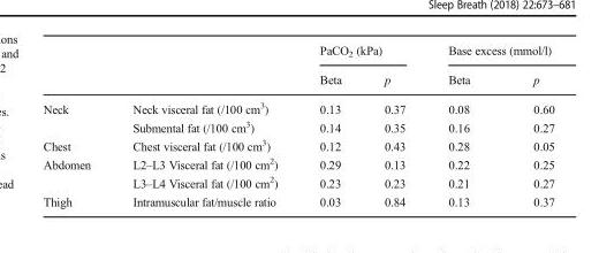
<table><thead><tr><td rowspan="2"></td><td rowspan="2"></td><td colspan="2">PaCO<sub>2</sub> (kPa)</td><td colspan="2">Base excess (mmol/l)</td></tr><tr><td>Beta</td><td>p</td><td>Beta</td><td>p</td></tr></thead><tbody><tr><td rowspan="2">Neck</td><td>Neck visceral fat (/100 cm<sup>3</sup>)</td><td>0.13</td><td>0.37</td><td>0.08</td><td>0.60</td></tr><tr><td>Submental fat (/100 cm<sup>3</sup>)</td><td>0.14</td><td>0.35</td><td>0.16</td><td>0.27</td></tr><tr><td>Chest</td><td>Chest visceral fat (/100 cm<sup>3</sup>)</td><td>0.12</td><td>0.43</td><td>0.28</td><td>0.05</td></tr><tr><td rowspan="2">Abdomen</td><td>L2–L3 Visceral fat (/100 cm<sup>2</sup>)</td><td>0.29</td><td>0.13</td><td>0.22</td><td>0.25</td></tr><tr><td>L3–L4 Visceral fat (/100 cm<sup>2</sup>)</td><td>0.23</td><td>0.23</td><td>0.21</td><td>0.27</td></tr><tr><td>Thigh</td><td>Intramuscular fat/muscle ratio</td><td>0.03</td><td>0.84</td><td>0.13</td><td>0.37</td></tr></tbody></table>